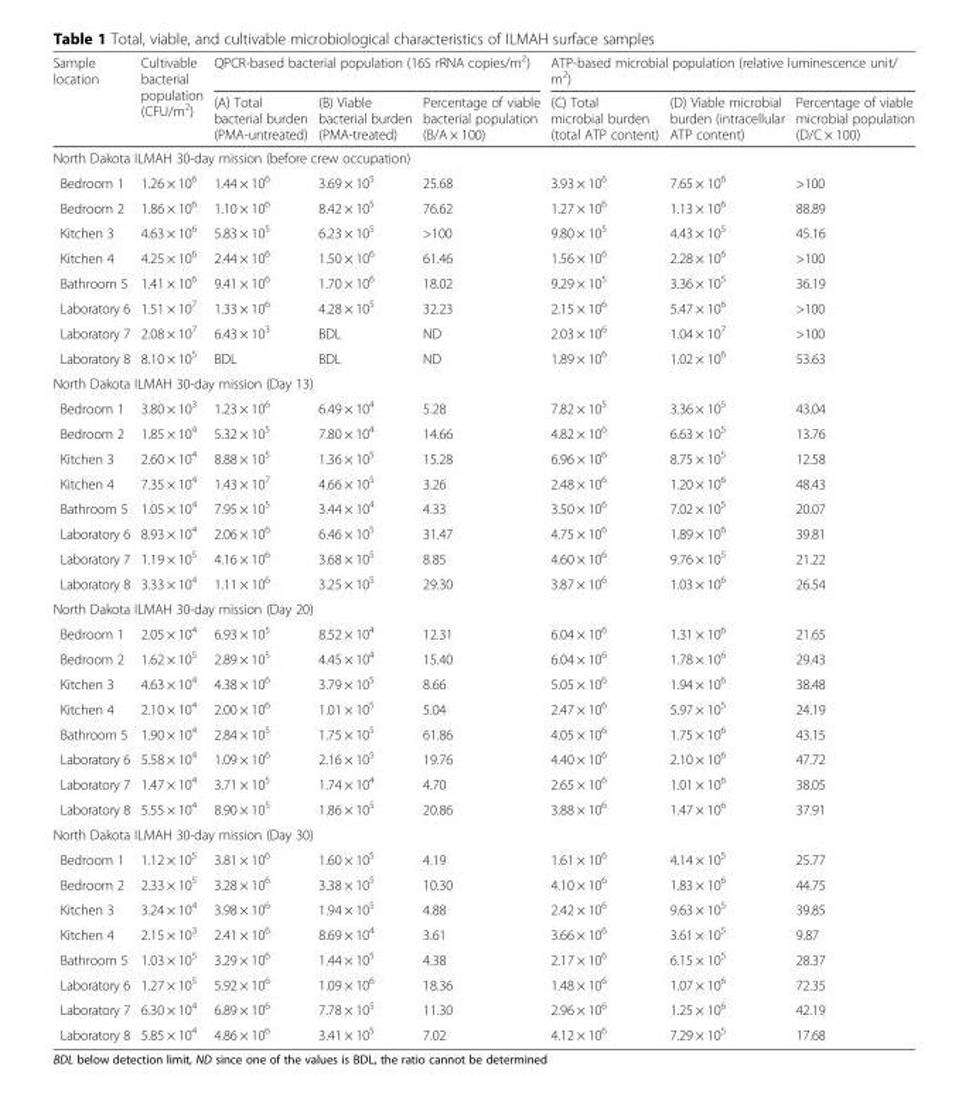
<table><thead><tr><td rowspan="2">Sample location</td><td rowspan="2">Cultivable bacterial population (CFU/m<sup>2</sup>)</td><td colspan="3">QPCR-based bacterial population (16S rRNA copies/m<sup>2</sup>)</td><td colspan="3">ATP-based microbial population (relative luminescence unit/ m<sup>2</sup>)</td></tr><tr><td>(A) Total bacterial burden (PMA-untreated)</td><td>(B) Viable bacterial burden (PMA-treated)</td><td>Percentage of viable bacterial population (B/A × 100)</td><td>(C) Total microbial burden (total ATP content)</td><td>(D) Viable microbial burden (intracellular ATP content)</td><td>Percentage of viable microbial population (D/C × 100)</td></tr></thead><tbody><tr><td colspan="8">North Dakota ILMAH 30-day mission (before crew occupation)</td></tr><tr><td>Bedroom 1</td><td>1.26 × 10<sup>6</sup></td><td>1.44 × 10<sup>6</sup></td><td>3.69 × 10<sup>5</sup></td><td>25.68</td><td>3.93 × 10<sup>6</sup></td><td>7.65 × 10<sup>6</sup></td><td>&gt;100</td></tr><tr><td>Bedroom 2</td><td>1.86 × 10<sup>6</sup></td><td>1.10 × 10<sup>6</sup></td><td>8.42 × 10<sup>5</sup></td><td>76.62</td><td>1.27 × 10<sup>6</sup></td><td>1.13 × 10<sup>6</sup></td><td>88.89</td></tr><tr><td>Kitchen 3</td><td>4.63 × 10<sup>6</sup></td><td>5.83 × 10<sup>5</sup></td><td>6.23 × 10<sup>5</sup></td><td>&gt;100</td><td>9.80 × 10<sup>5</sup></td><td>4.43 × 10<sup>5</sup></td><td>45.16</td></tr><tr><td>Kitchen 4</td><td>4.25 × 10<sup>6</sup></td><td>2.44 × 10<sup>6</sup></td><td>1.50 × 10<sup>6</sup></td><td>61.46</td><td>1.56 × 10<sup>6</sup></td><td>2.28 × 10<sup>6</sup></td><td>&gt;100</td></tr><tr><td>Bathroom 5</td><td>1.41 × 10<sup>6</sup></td><td>9.41 × 10<sup>6</sup></td><td>1.70 × 10<sup>6</sup></td><td>18.02</td><td>9.29 × 10<sup>5</sup></td><td>3.36 × 10<sup>5</sup></td><td>36.19</td></tr><tr><td>Laboratory 6</td><td>1.51 × 10<sup>7</sup></td><td>1.33 × 10<sup>6</sup></td><td>4.28 × 10<sup>5</sup></td><td>32.23</td><td>2.15 × 10<sup>6</sup></td><td>5.47 × 10<sup>6</sup></td><td>&gt;100</td></tr><tr><td>Laboratory 7</td><td>2.08 × 10<sup>7</sup></td><td>6.43 × 10<sup>3</sup></td><td>BDL</td><td>ND</td><td>2.03 × 10<sup>6</sup></td><td>1.04 × 10<sup>7</sup></td><td>&gt;100</td></tr><tr><td>Laboratory 8</td><td>8.10 × 10<sup>5</sup></td><td>BDL</td><td>BDL</td><td>ND</td><td>1.89 × 10<sup>6</sup></td><td>1.02 × 10<sup>6</sup></td><td>53.63</td></tr><tr><td colspan="8">North Dakota ILMAH 30-day mission (Day 13)</td></tr><tr><td>Bedroom 1</td><td>3.80 × 10<sup>3</sup></td><td>1.23 × 10<sup>6</sup></td><td>6.49 × 10<sup>4</sup></td><td>5.28</td><td>7.82 × 10<sup>5</sup></td><td>3.36 × 10<sup>5</sup></td><td>43.04</td></tr><tr><td>Bedroom 2</td><td>1.85 × 10<sup>4</sup></td><td>5.32 × 10<sup>5</sup></td><td>7.80 × 10<sup>4</sup></td><td>14.66</td><td>4.82 × 10<sup>6</sup></td><td>6.63 × 10<sup>5</sup></td><td>13.76</td></tr><tr><td>Kitchen 3</td><td>2.60 × 10<sup>4</sup></td><td>8.88 × 10<sup>5</sup></td><td>1.36 × 10<sup>5</sup></td><td>15.28</td><td>6.96 × 10<sup>6</sup></td><td>8.75 × 10<sup>5</sup></td><td>12.58</td></tr><tr><td>Kitchen 4</td><td>7.35 × 10<sup>4</sup></td><td>1.43 × 10<sup>7</sup></td><td>4.66 × 10<sup>5</sup></td><td>3.26</td><td>2.48 × 10<sup>6</sup></td><td>1.20 × 10<sup>6</sup></td><td>48.43</td></tr><tr><td>Bathroom 5</td><td>1.05 × 10<sup>4</sup></td><td>7.95 × 10<sup>5</sup></td><td>3.44 × 10<sup>4</sup></td><td>4.33</td><td>3.50 × 10<sup>6</sup></td><td>7.02 × 10<sup>5</sup></td><td>20.07</td></tr><tr><td>Laboratory 6</td><td>8.93 × 10<sup>4</sup></td><td>2.06 × 10<sup>6</sup></td><td>6.46 × 10<sup>5</sup></td><td>31.47</td><td>4.75 × 10<sup>6</sup></td><td>1.89 × 10<sup>6</sup></td><td>39.81</td></tr><tr><td>Laboratory 7</td><td>1.19 × 10<sup>5</sup></td><td>4.16 × 10<sup>6</sup></td><td>3.68 × 10<sup>5</sup></td><td>8.85</td><td>4.60 × 10<sup>6</sup></td><td>9.76 × 10<sup>5</sup></td><td>21.22</td></tr><tr><td>Laboratory 8</td><td>3.33 × 10<sup>4</sup></td><td>1.11 × 10<sup>6</sup></td><td>3.25 × 10<sup>5</sup></td><td>29.30</td><td>3.87 × 10<sup>6</sup></td><td>1.03 × 10<sup>6</sup></td><td>26.54</td></tr><tr><td colspan="8">North Dakota ILMAH 30-day mission (Day 20)</td></tr><tr><td>Bedroom 1</td><td>2.05 × 10<sup>4</sup></td><td>6.93 × 10<sup>5</sup></td><td>8.52 × 10<sup>4</sup></td><td>12.31</td><td>6.04 × 10<sup>6</sup></td><td>1.31 × 10<sup>6</sup></td><td>21.65</td></tr><tr><td>Bedroom 2</td><td>1.62 × 10<sup>5</sup></td><td>2.89 × 10<sup>5</sup></td><td>4.45 × 10<sup>4</sup></td><td>15.40</td><td>6.04 × 10<sup>6</sup></td><td>1.78 × 10<sup>6</sup></td><td>29.43</td></tr><tr><td>Kitchen 3</td><td>4.63 × 10<sup>4</sup></td><td>4.38 × 10<sup>6</sup></td><td>3.79 × 10<sup>5</sup></td><td>8.66</td><td>5.05 × 10<sup>6</sup></td><td>1.94 × 10<sup>6</sup></td><td>38.48</td></tr><tr><td>Kitchen 4</td><td>2.10 × 10<sup>4</sup></td><td>2.00 × 10<sup>6</sup></td><td>1.01 × 10<sup>5</sup></td><td>5.04</td><td>2.47 × 10<sup>6</sup></td><td>5.97 × 10<sup>5</sup></td><td>24.19</td></tr><tr><td>Bathroom 5</td><td>1.90 × 10<sup>4</sup></td><td>2.84 × 10<sup>5</sup></td><td>1.75 × 10<sup>5</sup></td><td>61.86</td><td>4.05 × 10<sup>6</sup></td><td>1.75 × 10<sup>6</sup></td><td>43.15</td></tr><tr><td>Laboratory 6</td><td>5.58 × 10<sup>4</sup></td><td>1.09 × 10<sup>6</sup></td><td>2.16 × 10<sup>5</sup></td><td>19.76</td><td>4.40 × 10<sup>6</sup></td><td>2.10 × 10<sup>6</sup></td><td>47.72</td></tr><tr><td>Laboratory 7</td><td>1.47 × 10<sup>4</sup></td><td>3.71 × 10<sup>5</sup></td><td>1.74 × 10<sup>4</sup></td><td>4.70</td><td>2.65 × 10<sup>6</sup></td><td>1.01 × 10<sup>6</sup></td><td>38.05</td></tr><tr><td>Laboratory 8</td><td>5.55 × 10<sup>4</sup></td><td>8.90 × 10<sup>5</sup></td><td>1.86 × 10<sup>5</sup></td><td>20.86</td><td>3.88 × 10<sup>6</sup></td><td>1.47 × 10<sup>6</sup></td><td>37.91</td></tr><tr><td colspan="8">North Dakota ILMAH 30-day mission (Day 30)</td></tr><tr><td>Bedroom 1</td><td>1.12 × 10<sup>5</sup></td><td>3.81 × 10<sup>6</sup></td><td>1.60 × 10<sup>5</sup></td><td>4.19</td><td>1.61 × 10<sup>6</sup></td><td>4.14 × 10<sup>5</sup></td><td>25.77</td></tr><tr><td>Bedroom 2</td><td>2.33 × 10<sup>5</sup></td><td>3.28 × 10<sup>6</sup></td><td>3.38 × 10<sup>5</sup></td><td>10.30</td><td>4.10 × 10<sup>6</sup></td><td>1.83 × 10<sup>6</sup></td><td>44.75</td></tr><tr><td>Kitchen 3</td><td>3.24 × 10<sup>4</sup></td><td>3.98 × 10<sup>6</sup></td><td>1.94 × 10<sup>5</sup></td><td>4.88</td><td>2.42 × 10<sup>6</sup></td><td>9.63 × 10<sup>5</sup></td><td>39.85</td></tr><tr><td>Kitchen 4</td><td>2.15 × 10<sup>3</sup></td><td>2.41 × 10<sup>6</sup></td><td>8.69 × 10<sup>4</sup></td><td>3.61</td><td>3.66 × 10<sup>6</sup></td><td>3.61 × 10<sup>5</sup></td><td>9.87</td></tr><tr><td>Bathroom 5</td><td>1.03 × 10<sup>5</sup></td><td>3.29 × 10<sup>6</sup></td><td>1.44 × 10<sup>5</sup></td><td>4.38</td><td>2.17 × 10<sup>6</sup></td><td>6.15 × 10<sup>5</sup></td><td>28.37</td></tr><tr><td>Laboratory 6</td><td>1.27 × 10<sup>5</sup></td><td>5.92 × 10<sup>6</sup></td><td>1.09 × 10<sup>6</sup></td><td>18.36</td><td>1.48 × 10<sup>6</sup></td><td>1.07 × 10<sup>6</sup></td><td>72.35</td></tr><tr><td>Laboratory 7</td><td>6.30 × 10<sup>4</sup></td><td>6.89 × 10<sup>6</sup></td><td>7.78 × 10<sup>5</sup></td><td>11.30</td><td>2.96 × 10<sup>6</sup></td><td>1.25 × 10<sup>6</sup></td><td>42.19</td></tr><tr><td>Laboratory 8</td><td>5.85 × 10<sup>4</sup></td><td>4.86 × 10<sup>6</sup></td><td>3.41 × 10<sup>5</sup></td><td>7.02</td><td>4.12 × 10<sup>6</sup></td><td>7.29 × 10<sup>5</sup></td><td>17.68</td></tr></tbody></table>